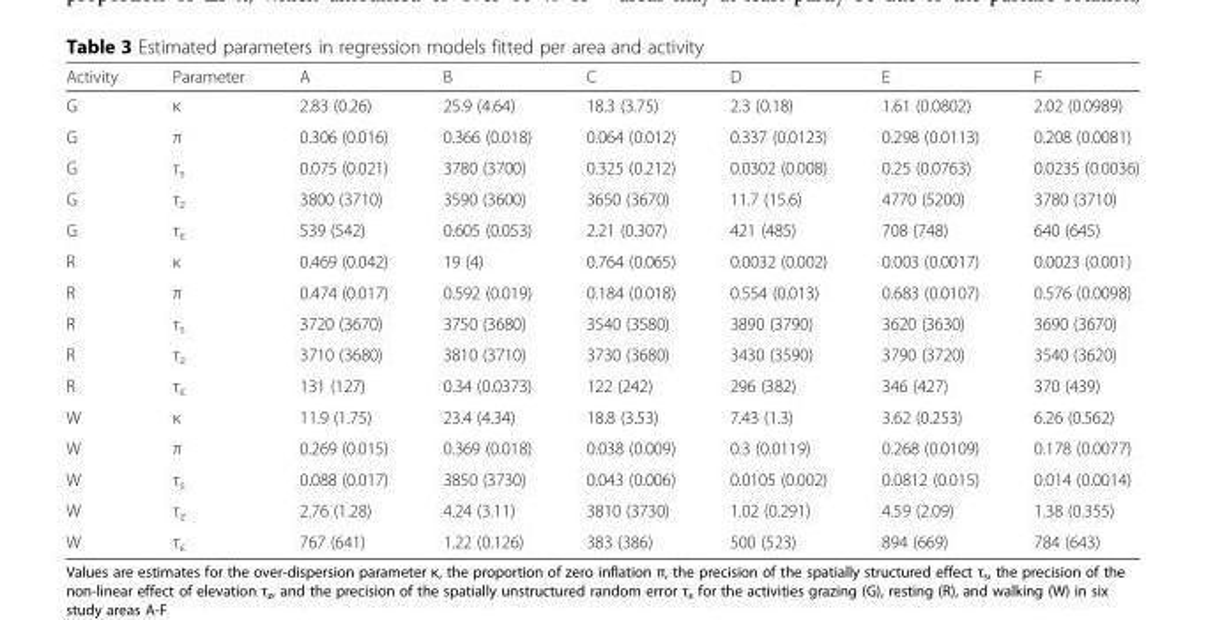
<table><thead><tr><td>Activity</td><td>Parameter</td><td>A</td><td>B</td><td>C</td><td>D</td><td>E</td><td>F</td></tr></thead><tbody><tr><td>G</td><td>κ</td><td>2.83 (0.26)</td><td>25.9 (4.64)</td><td>18.3 (3.75)</td><td>2.3 (0.18)</td><td>1.61 (0.0802)</td><td>2.02 (0.0989)</td></tr><tr><td>G</td><td>π</td><td>0.306 (0.016)</td><td>0.366 (0.018)</td><td>0.064 (0.012)</td><td>0.337 (0.0123)</td><td>0.298 (0.0113)</td><td>0.208 (0.0081)</td></tr><tr><td>G</td><td>τ<sub>s</sub></td><td>0.075 (0.021)</td><td>3780 (3700)</td><td>0.325 (0.212)</td><td>0.0302 (0.008)</td><td>0.25 (0.0763)</td><td>0.0235 (0.0036)</td></tr><tr><td>G</td><td>τ<sub>z</sub></td><td>3800 (3710)</td><td>3590 (3600)</td><td>3650 (3670)</td><td>11.7 (15.6)</td><td>4770 (5200)</td><td>3780 (3710)</td></tr><tr><td>G</td><td>τ<sub>ε</sub></td><td>539 (542)</td><td>0.605 (0.053)</td><td>2.21 (0.307)</td><td>421 (485)</td><td>708 (748)</td><td>640 (645)</td></tr><tr><td>R</td><td>κ</td><td>0.469 (0.042)</td><td>19 (4)</td><td>0.764 (0.065)</td><td>0.0032 (0.002)</td><td>0.003 (0.0017)</td><td>0.0023 (0.001)</td></tr><tr><td>R</td><td>π</td><td>0.474 (0.017)</td><td>0.592 (0.019)</td><td>0.184 (0.018)</td><td>0.554 (0.013)</td><td>0.683 (0.0107)</td><td>0.576 (0.0098)</td></tr><tr><td>R</td><td>τ<sub>s</sub></td><td>3720 (3670)</td><td>3750 (3680)</td><td>3540 (3580)</td><td>3890 (3790)</td><td>3620 (3630)</td><td>3690 (3670)</td></tr><tr><td>R</td><td>τ<sub>z</sub></td><td>3710 (3680)</td><td>3810 (3710)</td><td>3730 (3680)</td><td>3430 (3590)</td><td>3790 (3720)</td><td>3540 (3620)</td></tr><tr><td>R</td><td>τ<sub>ε</sub></td><td>131 (127)</td><td>0.34 (0.0373)</td><td>122 (242)</td><td>296 (382)</td><td>346 (427)</td><td>370 (439)</td></tr><tr><td>W</td><td>κ</td><td>11.9 (1.75)</td><td>23.4 (4.34)</td><td>18.8 (3.53)</td><td>7.43 (1.3)</td><td>3.62 (0.253)</td><td>6.26 (0.562)</td></tr><tr><td>W</td><td>π</td><td>0.269 (0.015)</td><td>0.369 (0.018)</td><td>0.038 (0.009)</td><td>0.3 (0.0119)</td><td>0.268 (0.0109)</td><td>0.178 (0.0077)</td></tr><tr><td>W</td><td>τ<sub>s</sub></td><td>0.088 (0.017)</td><td>3850 (3730)</td><td>0.043 (0.006)</td><td>0.0105 (0.002)</td><td>0.0812 (0.015)</td><td>0.014 (0.0014)</td></tr><tr><td>W</td><td>τ<sub>z</sub></td><td>2.76 (1.28)</td><td>4.24 (3.11)</td><td>3810 (3730)</td><td>1.02 (0.291)</td><td>4.59 (2.09)</td><td>1.38 (0.355)</td></tr><tr><td>W</td><td>τ<sub>ε</sub></td><td>767 (641)</td><td>1.22 (0.126)</td><td>383 (386)</td><td>500 (523)</td><td>894 (669)</td><td>784 (643)</td></tr></tbody></table>